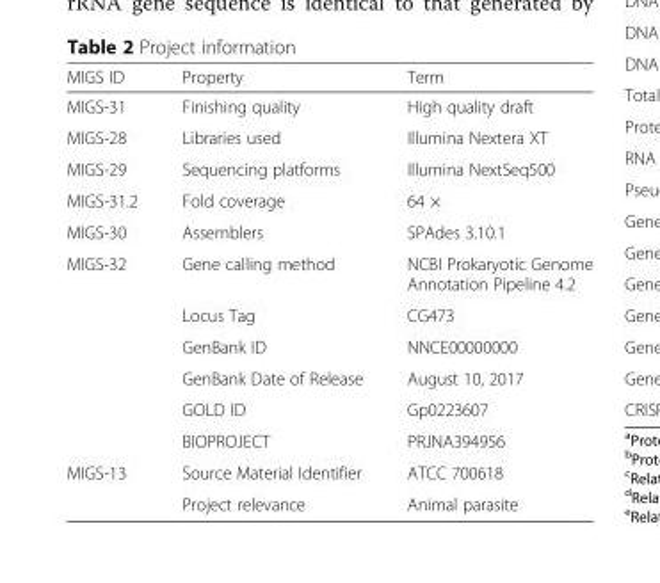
<table><thead><tr><td>MIGS ID</td><td>Property</td><td>Term</td></tr></thead><tbody><tr><td>MIGS-31</td><td>Finishing quality</td><td>High quality draft</td></tr><tr><td>MIGS-28</td><td>Libraries used</td><td>Illumina Nextera XT</td></tr><tr><td>MIGS-29</td><td>Sequencing platforms</td><td>Illumina NextSeq500</td></tr><tr><td>MIGS-31.2</td><td>Fold coverage</td><td>64 ×</td></tr><tr><td>MIGS-30</td><td>Assemblers</td><td>SPAdes 3.10.1</td></tr><tr><td rowspan="6">MIGS-32</td><td>Gene calling method</td><td>NCBI Prokaryotic Genome Annotation Pipeline 4.2</td></tr><tr><td>Locus Tag</td><td>CG473</td></tr><tr><td>GenBank ID</td><td>NNCE00000000</td></tr><tr><td>GenBank Date of Release</td><td>August 10, 2017</td></tr><tr><td>GOLD ID</td><td>Gp0223607</td></tr><tr><td>BIOPROJECT</td><td>PRJNA394956</td></tr><tr><td rowspan="2">MIGS-13</td><td>Source Material Identifier</td><td>ATCC 700618</td></tr><tr><td>Project relevance</td><td>Animal parasite</td></tr></tbody></table>